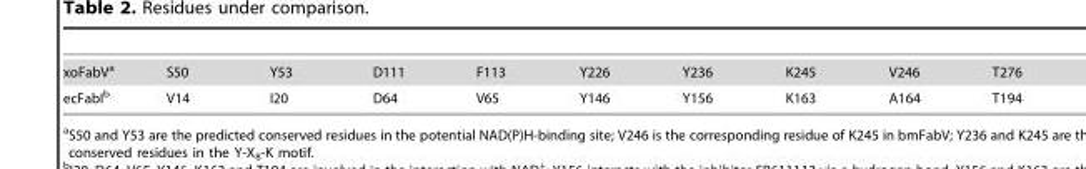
<table><tbody><tr><td>xoFabV<sup>a</sup></td><td>S50</td><td>Y53</td><td>D111</td><td>F113</td><td>Y226</td><td>Y236</td><td>K245</td><td>V246</td><td>T276</td></tr><tr><td>ecFabI<sup>b</sup></td><td>V14</td><td>I20</td><td>D64</td><td>V65</td><td>Y146</td><td>Y156</td><td>K163</td><td>A164</td><td>T194</td></tr></tbody></table>